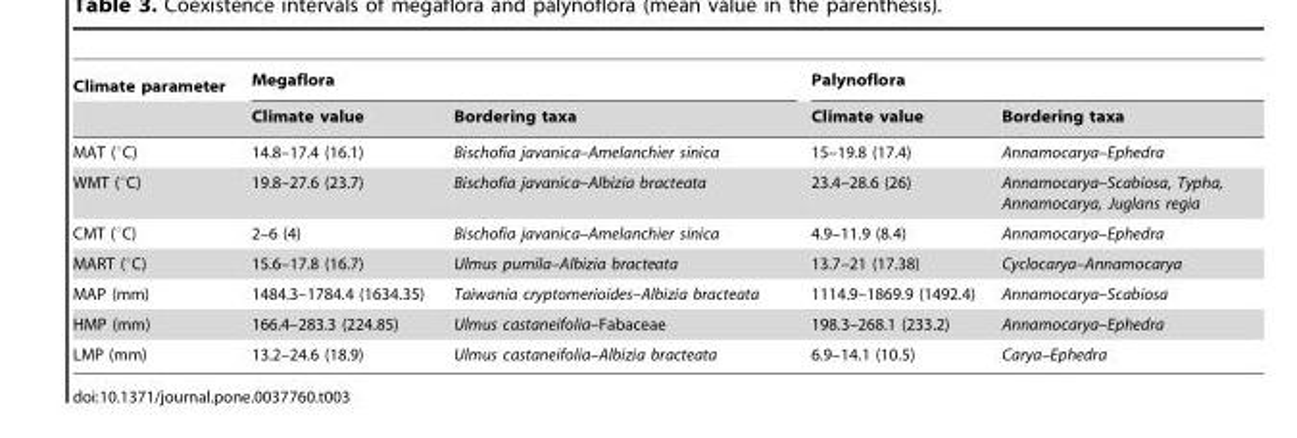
<table><thead><tr><td rowspan="2">Climate parameter</td><td colspan="2">Megaflora</td><td colspan="2">Palynoflora</td></tr><tr><td>Climate value</td><td>Bordering taxa</td><td>Climate value</td><td>Bordering taxa</td></tr></thead><tbody><tr><td>MAT (°C)</td><td>14.8–17.4 (16.1)</td><td>Bischofia javanica–Amelanchier sinica</td><td>15–19.8 (17.4)</td><td>Annamocarya–Ephedra</td></tr><tr><td>WMT (°C)</td><td>19.8–27.6 (23.7)</td><td>Bischofia javanica–Albizia bracteata</td><td>23.4–28.6 (26)</td><td>Annamocarya–Scabiosa, Typha, Annamocarya, Juglans regia</td></tr><tr><td>CMT (°C)</td><td>2–6 (4)</td><td>Bischofia javanica–Amelanchier sinica</td><td>4.9–11.9 (8.4)</td><td>Annamocarya–Ephedra</td></tr><tr><td>MART (°C)</td><td>15.6–17.8 (16.7)</td><td>Ulmus pumila–Albizia bracteata</td><td>13.7–21 (17.38)</td><td>Cyclocarya–Annamocarya</td></tr><tr><td>MAP (mm)</td><td>1484.3–1784.4 (1634.35)</td><td>Taiwania cryptomerioides–Albizia bracteata</td><td>1114.9–1869.9 (1492.4)</td><td>Annamocarya–Scabiosa</td></tr><tr><td>HMP (mm)</td><td>166.4–283.3 (224.85)</td><td>Ulmus castaneifolia–Fabaceae</td><td>198.3–268.1 (233.2)</td><td>Annamocarya–Ephedra</td></tr><tr><td>LMP (mm)</td><td>13.2–24.6 (18.9)</td><td>Ulmus castaneifolia–Albizia bracteata</td><td>6.9–14.1 (10.5)</td><td>Carya–Ephedra</td></tr></tbody></table>